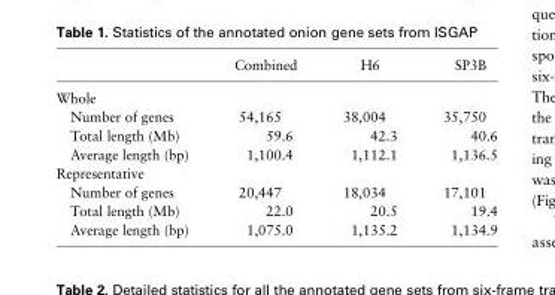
<table><thead><tr><td></td><td>Combined</td><td>H6</td><td>SP3B</td></tr></thead><tbody><tr><td colspan="4">Whole</td></tr><tr><td>Number of genes</td><td>54,165</td><td>38,004</td><td>35,750</td></tr><tr><td>Total length (Mb)</td><td>59.6</td><td>42.3</td><td>40.6</td></tr><tr><td>Average length (bp)</td><td>1,100.4</td><td>1,112.1</td><td>1,136.5</td></tr><tr><td colspan="4">Representative</td></tr><tr><td>Number of genes</td><td>20,447</td><td>18,034</td><td>17,101</td></tr><tr><td>Total length (Mb)</td><td>22.0</td><td>20.5</td><td>19.4</td></tr><tr><td>Average length (bp)</td><td>1,075.0</td><td>1,135.2</td><td>1,134.9</td></tr></tbody></table>